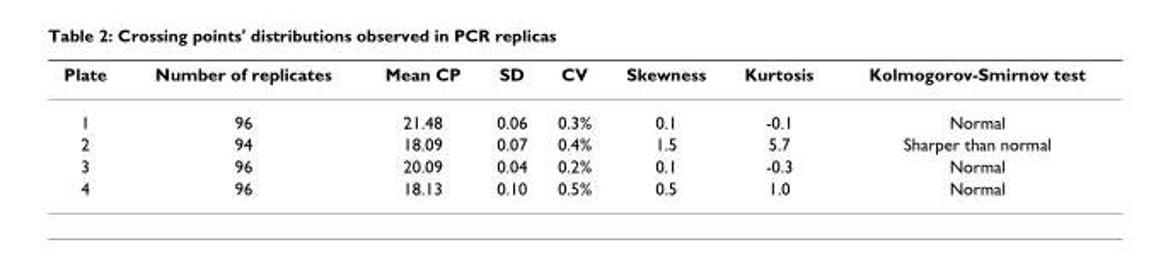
<table><thead><tr><td>Plate</td><td>Number of replicates</td><td>Mean CP</td><td>SD</td><td>CV</td><td>Skewness</td><td>Kurtosis</td><td>Kolmogorov-Smirnov test</td></tr></thead><tbody><tr><td>1</td><td>96</td><td>21.48</td><td>0.06</td><td>0.3%</td><td>0.1</td><td>-0.1</td><td>Normal</td></tr><tr><td>2</td><td>94</td><td>18.09</td><td>0.07</td><td>0.4%</td><td>1.5</td><td>5.7</td><td>Sharper than normal</td></tr><tr><td>3</td><td>96</td><td>20.09</td><td>0.04</td><td>0.2%</td><td>0.1</td><td>-0.3</td><td>Normal</td></tr><tr><td>4</td><td>96</td><td>18.13</td><td>0.10</td><td>0.5%</td><td>0.5</td><td>1.0</td><td>Normal</td></tr></tbody></table>